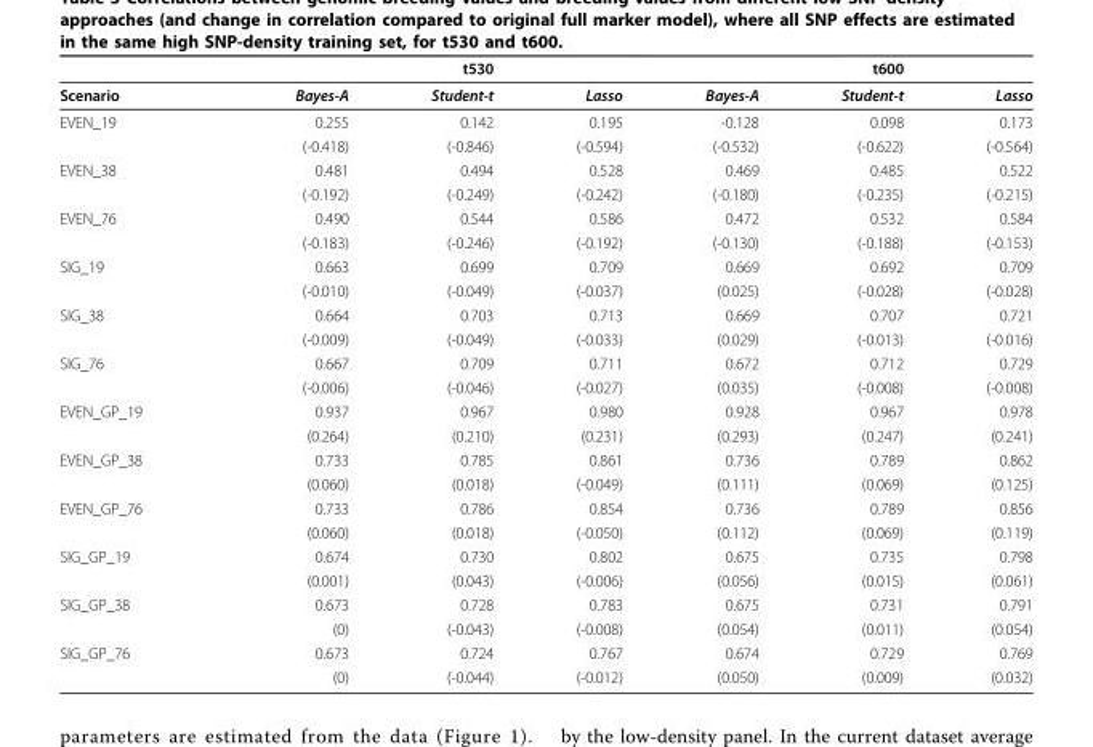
<table><thead><tr><td></td><td></td><td>t530</td><td></td><td></td><td>t600</td><td></td></tr></thead><tbody><tr><td>Scenario</td><td>Bayes-A</td><td>Student-t</td><td>Lasso</td><td>Bayes-A</td><td>Student-t</td><td>Lasso</td></tr><tr><td rowspan="2">EVEN_19</td><td>0.255</td><td>0.142</td><td>0.195</td><td>-0.128</td><td>0.098</td><td>0.173</td></tr><tr><td>(-0.418)</td><td>(-0.846)</td><td>(-0.594)</td><td>(-0.532)</td><td>(-0.622)</td><td>(-0.564)</td></tr><tr><td rowspan="2">EVEN_38</td><td>0.481</td><td>0.494</td><td>0.528</td><td>0.469</td><td>0.485</td><td>0.522</td></tr><tr><td>(-0.192)</td><td>(-0.249)</td><td>(-0.242)</td><td>(-0.180)</td><td>(-0.235)</td><td>(-0.215)</td></tr><tr><td rowspan="2">EVEN_76</td><td>0.490</td><td>0.544</td><td>0.586</td><td>0.472</td><td>0.532</td><td>0.584</td></tr><tr><td>(-0.183)</td><td>(-0.246)</td><td>(-0.192)</td><td>(-0.130)</td><td>(-0.188)</td><td>(-0.153)</td></tr><tr><td rowspan="2">SIG_19</td><td>0.663</td><td>0.699</td><td>0.709</td><td>0.669</td><td>0.692</td><td>0.709</td></tr><tr><td>(-0.010)</td><td>(-0.049)</td><td>(-0.037)</td><td>(0.025)</td><td>(-0.028)</td><td>(-0.028)</td></tr><tr><td rowspan="2">SIG_38</td><td>0.664</td><td>0.703</td><td>0.713</td><td>0.669</td><td>0.707</td><td>0.721</td></tr><tr><td>(-0.009)</td><td>(-0.049)</td><td>(-0.033)</td><td>(0.029)</td><td>(-0.013)</td><td>(-0.016)</td></tr><tr><td rowspan="2">SIG_76</td><td>0.667</td><td>0.709</td><td>0.711</td><td>0.672</td><td>0.712</td><td>0.729</td></tr><tr><td>(-0.006)</td><td>(-0.046)</td><td>(-0.027)</td><td>(0.035)</td><td>(-0.008)</td><td>(-0.008)</td></tr><tr><td rowspan="2">EVEN_GP_19</td><td>0.937</td><td>0.967</td><td>0.980</td><td>0.928</td><td>0.967</td><td>0.978</td></tr><tr><td>(0.264)</td><td>(0.210)</td><td>(0.231)</td><td>(0.293)</td><td>(0.247)</td><td>(0.241)</td></tr><tr><td rowspan="2">EVEN_GP_38</td><td>0.733</td><td>0.785</td><td>0.861</td><td>0.736</td><td>0.789</td><td>0.862</td></tr><tr><td>(0.060)</td><td>(0.018)</td><td>(-0.049)</td><td>(0.111)</td><td>(0.069)</td><td>(0.125)</td></tr><tr><td rowspan="2">EVEN_GP_76</td><td>0.733</td><td>0.786</td><td>0.854</td><td>0.736</td><td>0.789</td><td>0.856</td></tr><tr><td>(0.060)</td><td>(0.018)</td><td>(-0.050)</td><td>(0.112)</td><td>(0.069)</td><td>(0.119)</td></tr><tr><td rowspan="2">SIG_GP_19</td><td>0.674</td><td>0.730</td><td>0.802</td><td>0.675</td><td>0.735</td><td>0.798</td></tr><tr><td>(0.001)</td><td>(0.043)</td><td>(-0.006)</td><td>(0.056)</td><td>(0.015)</td><td>(0.061)</td></tr><tr><td rowspan="2">SIG_GP_38</td><td>0.673</td><td>0.728</td><td>0.783</td><td>0.675</td><td>0.731</td><td>0.791</td></tr><tr><td>(0)</td><td>(-0.043)</td><td>(-0.008)</td><td>(0.054)</td><td>(0.011)</td><td>(0.054)</td></tr><tr><td rowspan="2">SIG_GP_76</td><td>0.673</td><td>0.724</td><td>0.767</td><td>0.674</td><td>0.729</td><td>0.769</td></tr><tr><td>(0)</td><td>(-0.044)</td><td>(-0.012)</td><td>(0.050)</td><td>(0.009)</td><td>(0.032)</td></tr></tbody></table>